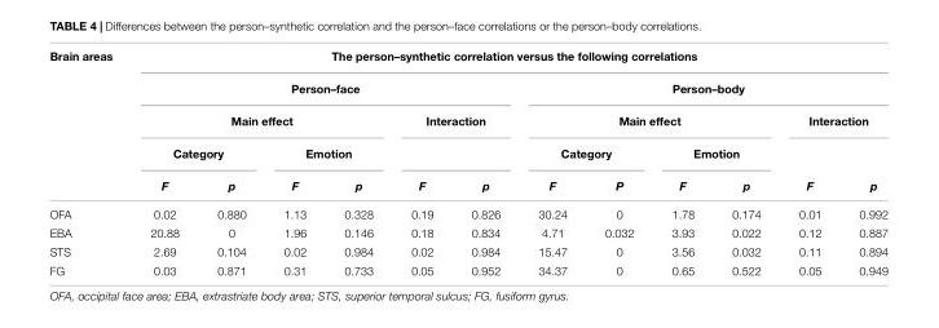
<table><thead><tr><td rowspan="5">Brain areas</td><td colspan="12">The person–synthetic correlation versus the following correlations</td></tr><tr><td colspan="6">Person–face</td><td colspan="6">Person–body</td></tr><tr><td colspan="4">Main effect</td><td colspan="2">Interaction</td><td colspan="4">Main effect</td><td colspan="2">Interaction</td></tr><tr><td colspan="2">Category</td><td colspan="2">Emotion</td><td rowspan="2">F</td><td rowspan="2">p</td><td colspan="2">Category</td><td colspan="2">Emotion</td><td rowspan="2">F</td><td rowspan="2">p</td></tr><tr><td>F</td><td>p</td><td>F</td><td>p</td><td>F</td><td>P</td><td>F</td><td>p</td></tr></thead><tbody><tr><td>OFA</td><td>0.02</td><td>0.880</td><td>1.13</td><td>0.328</td><td>0.19</td><td>0.826</td><td>30.24</td><td>0</td><td>1.78</td><td>0.174</td><td>0.01</td><td>0.992</td></tr><tr><td>EBA</td><td>20.88</td><td>0</td><td>1.96</td><td>0.146</td><td>0.18</td><td>0.834</td><td>4.71</td><td>0.032</td><td>3.93</td><td>0.022</td><td>0.12</td><td>0.887</td></tr><tr><td>STS</td><td>2.69</td><td>0.104</td><td>0.02</td><td>0.984</td><td>0.02</td><td>0.984</td><td>15.47</td><td>0</td><td>3.56</td><td>0.032</td><td>0.11</td><td>0.894</td></tr><tr><td>FG</td><td>0.03</td><td>0.871</td><td>0.31</td><td>0.733</td><td>0.05</td><td>0.952</td><td>34.37</td><td>0</td><td>0.65</td><td>0.522</td><td>0.05</td><td>0.949</td></tr></tbody></table>